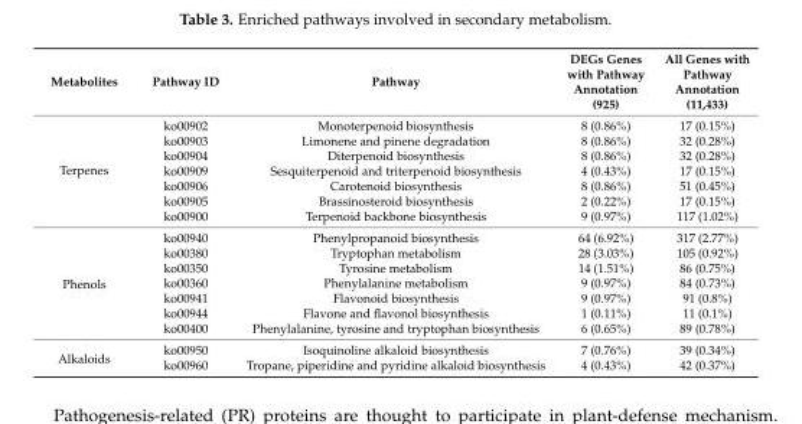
<table><thead><tr><td>Metabolites</td><td>Pathway ID</td><td>Pathway</td><td>DEGs Genes with Pathway Annotation (925)</td><td>All Genes with Pathway Annotation (11,433)</td></tr></thead><tbody><tr><td rowspan="7">Terpenes</td><td>ko00902</td><td>Monoterpenoid biosynthesis</td><td>8 (0.86%)</td><td>17 (0.15%)</td></tr><tr><td>ko00903</td><td>Limonene and pinene degradation</td><td>8 (0.86%)</td><td>32 (0.28%)</td></tr><tr><td>ko00904</td><td>Diterpenoid biosynthesis</td><td>8 (0.86%)</td><td>32 (0.28%)</td></tr><tr><td>ko00909</td><td>Sesquiterpenoid and triterpenoid biosynthesis</td><td>4 (0.43%)</td><td>17 (0.15%)</td></tr><tr><td>ko00906</td><td>Carotenoid biosynthesis</td><td>8 (0.86%)</td><td>51 (0.45%)</td></tr><tr><td>ko00905</td><td>Brassinosteroid biosynthesis</td><td>2 (0.22%)</td><td>17 (0.15%)</td></tr><tr><td>ko00900</td><td>Terpenoid backbone biosynthesis</td><td>9 (0.97%)</td><td>117 (1.02%)</td></tr><tr><td rowspan="7">Phenols</td><td>ko00940</td><td>Phenylpropanoid biosynthesis</td><td>64 (6.92%)</td><td>317 (2.77%)</td></tr><tr><td>ko00380</td><td>Tryptophan metabolism</td><td>28 (3.03%)</td><td>105 (0.92%)</td></tr><tr><td>ko00350</td><td>Tyrosine metabolism</td><td>14 (1.51%)</td><td>86 (0.75%)</td></tr><tr><td>ko00360</td><td>Phenylalanine metabolism</td><td>9 (0.97%)</td><td>84 (0.73%)</td></tr><tr><td>ko00941</td><td>Flavonoid biosynthesis</td><td>9 (0.97%)</td><td>91 (0.8%)</td></tr><tr><td>ko00944</td><td>Flavone and flavonol biosynthesis</td><td>1 (0.11%)</td><td>11 (0.1%)</td></tr><tr><td>ko00400</td><td>Phenylalanine, tyrosine and tryptophan biosynthesis</td><td>6 (0.65%)</td><td>89 (0.78%)</td></tr><tr><td rowspan="2">Alkaloids</td><td>ko00950</td><td>Isoquinoline alkaloid biosynthesis</td><td>7 (0.76%)</td><td>39 (0.34%)</td></tr><tr><td>ko00960</td><td>Tropane, piperidine and pyridine alkaloid biosynthesis</td><td>4 (0.43%)</td><td>42 (0.37%)</td></tr></tbody></table>